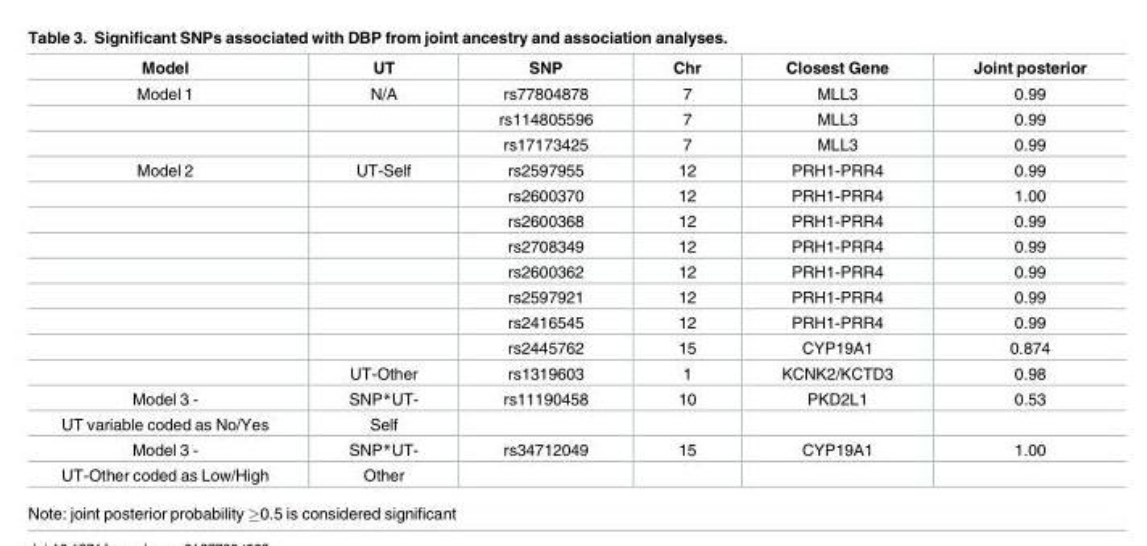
<table><thead><tr><td>Model</td><td>UT</td><td>SNP</td><td>Chr</td><td>Closest Gene</td><td>Joint posterior</td></tr></thead><tbody><tr><td rowspan="3">Model 1</td><td>N/A</td><td>rs77804878</td><td>7</td><td>MLL3</td><td>0.99</td></tr><tr><td></td><td>rs114805596</td><td>7</td><td>MLL3</td><td>0.99</td></tr><tr><td></td><td>rs17173425</td><td>7</td><td>MLL3</td><td>0.99</td></tr><tr><td rowspan="9">Model 2</td><td>UT-Self</td><td>rs2597955</td><td>12</td><td>PRH1-PRR4</td><td>0.99</td></tr><tr><td></td><td>rs2600370</td><td>12</td><td>PRH1-PRR4</td><td>1.00</td></tr><tr><td></td><td>rs2600368</td><td>12</td><td>PRH1-PRR4</td><td>0.99</td></tr><tr><td></td><td>rs2708349</td><td>12</td><td>PRH1-PRR4</td><td>0.99</td></tr><tr><td></td><td>rs2600362</td><td>12</td><td>PRH1-PRR4</td><td>0.99</td></tr><tr><td></td><td>rs2597921</td><td>12</td><td>PRH1-PRR4</td><td>0.99</td></tr><tr><td></td><td>rs2416545</td><td>12</td><td>PRH1-PRR4</td><td>0.99</td></tr><tr><td></td><td>rs2445762</td><td>15</td><td>CYP19A1</td><td>0.874</td></tr><tr><td>UT-Other</td><td>rs1319603</td><td>1</td><td>KCNK2/KCTD3</td><td>0.98</td></tr><tr><td>Model 3 -</td><td>SNP*UT-</td><td>rs11190458</td><td>10</td><td>PKD2L1</td><td>0.53</td></tr><tr><td>UT variable coded as No/Yes</td><td>Self</td><td></td><td></td><td></td><td></td></tr><tr><td>Model 3 -</td><td>SNP*UT-</td><td>rs34712049</td><td>15</td><td>CYP19A1</td><td>1.00</td></tr><tr><td>UT-Other coded as Low/High</td><td>Other</td><td></td><td></td><td></td><td></td></tr></tbody></table>